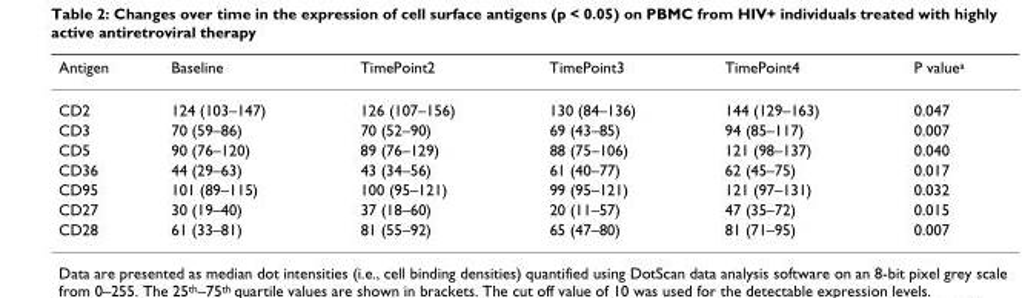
<table><thead><tr><td>Antigen</td><td>Baseline</td><td>TimePoint2</td><td>TimePoint3</td><td>TimePoint4</td><td>P value<sup>a</sup></td></tr></thead><tbody><tr><td>CD2</td><td>124 (103–147)</td><td>126 (107–156)</td><td>130 (84–136)</td><td>144 (129–163)</td><td>0.047</td></tr><tr><td>CD3</td><td>70 (59–86)</td><td>70 (52–90)</td><td>69 (43–85)</td><td>94 (85–117)</td><td>0.007</td></tr><tr><td>CD5</td><td>90 (76–120)</td><td>89 (76–129)</td><td>88 (75–106)</td><td>121 (98–137)</td><td>0.040</td></tr><tr><td>CD36</td><td>44 (29–63)</td><td>43 (34–56)</td><td>61 (40–77)</td><td>62 (45–75)</td><td>0.017</td></tr><tr><td>CD95</td><td>101 (89–115)</td><td>100 (95–121)</td><td>99 (95–121)</td><td>121 (97–131)</td><td>0.032</td></tr><tr><td>CD27</td><td>30 (19–40)</td><td>37 (18–60)</td><td>20 (11–57)</td><td>47 (35–72)</td><td>0.015</td></tr><tr><td>CD28</td><td>61 (33–81)</td><td>81 (55–92)</td><td>65 (47–80)</td><td>81 (71–95)</td><td>0.007</td></tr></tbody></table>